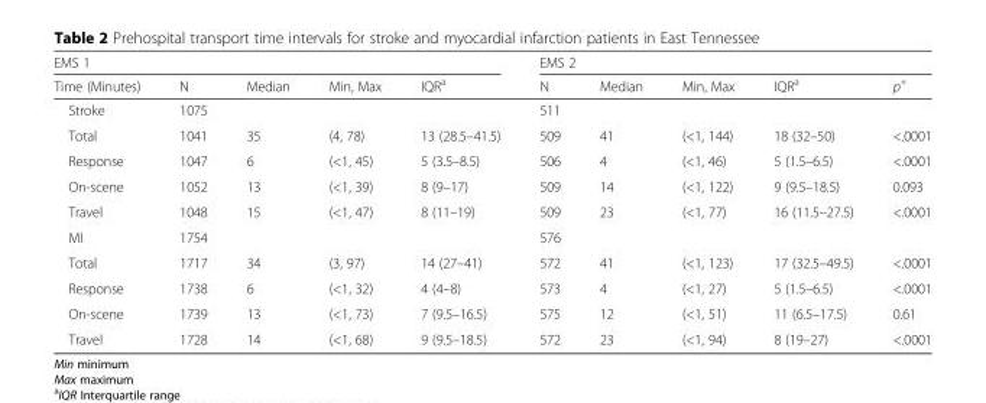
<table><thead><tr><td colspan="5">EMS 1</td><td colspan="5">EMS 2</td></tr><tr><td>Time (Minutes)</td><td>N</td><td>Median</td><td>Min, Max</td><td>IQR<sup>a</sup></td><td>N</td><td>Median</td><td>Min, Max</td><td>IQR<sup>a</sup></td><td>p<sup>+</sup></td></tr></thead><tbody><tr><td>Stroke</td><td>1075</td><td></td><td></td><td></td><td>511</td><td></td><td></td><td></td><td></td></tr><tr><td>Total</td><td>1041</td><td>35</td><td>(4, 78)</td><td>13 (28.5–41.5)</td><td>509</td><td>41</td><td>(&lt;1, 144)</td><td>18 (32–50)</td><td>&lt;.0001</td></tr><tr><td>Response</td><td>1047</td><td>6</td><td>(&lt;1, 45)</td><td>5 (3.5–8.5)</td><td>506</td><td>4</td><td>(&lt;1, 46)</td><td>5 (1.5–6.5)</td><td>&lt;.0001</td></tr><tr><td>On-scene</td><td>1052</td><td>13</td><td>(&lt;1, 39)</td><td>8 (9–17)</td><td>509</td><td>14</td><td>(&lt;1, 122)</td><td>9 (9.5–18.5)</td><td>0.093</td></tr><tr><td>Travel</td><td>1048</td><td>15</td><td>(&lt;1, 47)</td><td>8 (11–19)</td><td>509</td><td>23</td><td>(&lt;1, 77)</td><td>16 (11.5–27.5)</td><td>&lt;.0001</td></tr><tr><td>MI</td><td>1754</td><td></td><td></td><td></td><td>576</td><td></td><td></td><td></td><td></td></tr><tr><td>Total</td><td>1717</td><td>34</td><td>(3, 97)</td><td>14 (27–41)</td><td>572</td><td>41</td><td>(&lt;1, 123)</td><td>17 (32.5–49.5)</td><td>&lt;.0001</td></tr><tr><td>Response</td><td>1738</td><td>6</td><td>(&lt;1, 32)</td><td>4 (4–8)</td><td>573</td><td>4</td><td>(&lt;1, 27)</td><td>5 (1.5–6.5)</td><td>&lt;.0001</td></tr><tr><td>On-scene</td><td>1739</td><td>13</td><td>(&lt;1, 73)</td><td>7 (9.5–16.5)</td><td>575</td><td>12</td><td>(&lt;1, 51)</td><td>11 (6.5–17.5)</td><td>0.61</td></tr><tr><td>Travel</td><td>1728</td><td>14</td><td>(&lt;1, 68)</td><td>9 (9.5–18.5)</td><td>572</td><td>23</td><td>(&lt;1, 94)</td><td>8 (19–27)</td><td>&lt;.0001</td></tr></tbody></table>